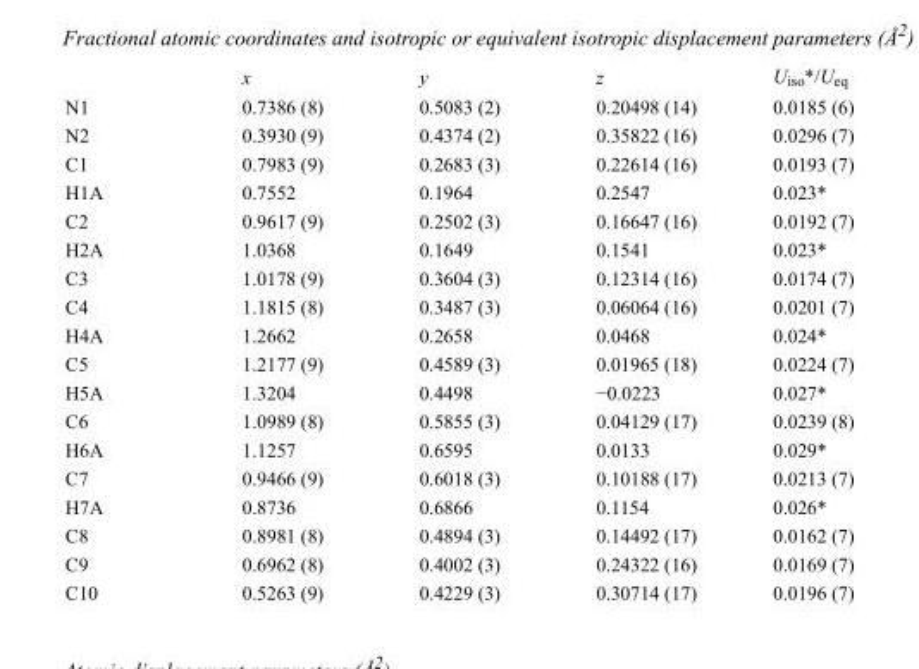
<table><thead><tr><td></td><td>x</td><td>y</td><td>z</td><td>U<sub>iso</sub>*/U<sub>eq</sub></td></tr></thead><tbody><tr><td>N1</td><td>0.7386 (8)</td><td>0.5083 (2)</td><td>0.20498 (14)</td><td>0.0185 (6)</td></tr><tr><td>N2</td><td>0.3930 (9)</td><td>0.4374 (2)</td><td>0.35822 (16)</td><td>0.0296 (7)</td></tr><tr><td>C1</td><td>0.7983 (9)</td><td>0.2683 (3)</td><td>0.22614 (16)</td><td>0.0193 (7)</td></tr><tr><td>H1A</td><td>0.7552</td><td>0.1964</td><td>0.2547</td><td>0.023*</td></tr><tr><td>C2</td><td>0.9617 (9)</td><td>0.2502 (3)</td><td>0.16647 (16)</td><td>0.0192 (7)</td></tr><tr><td>H2A</td><td>1.0368</td><td>0.1649</td><td>0.1541</td><td>0.023*</td></tr><tr><td>C3</td><td>1.0178 (9)</td><td>0.3604 (3)</td><td>0.12314 (16)</td><td>0.0174 (7)</td></tr><tr><td>C4</td><td>1.1815 (8)</td><td>0.3487 (3)</td><td>0.06064 (16)</td><td>0.0201 (7)</td></tr><tr><td>H4A</td><td>1.2662</td><td>0.2658</td><td>0.0468</td><td>0.024*</td></tr><tr><td>C5</td><td>1.2177 (9)</td><td>0.4589 (3)</td><td>0.01965 (18)</td><td>0.0224 (7)</td></tr><tr><td>H5A</td><td>1.3204</td><td>0.4498</td><td>−0.0223</td><td>0.027*</td></tr><tr><td>C6</td><td>1.0989 (8)</td><td>0.5855 (3)</td><td>0.04129 (17)</td><td>0.0239 (8)</td></tr><tr><td>H6A</td><td>1.1257</td><td>0.6595</td><td>0.0133</td><td>0.029*</td></tr><tr><td>C7</td><td>0.9466 (9)</td><td>0.6018 (3)</td><td>0.10188 (17)</td><td>0.0213 (7)</td></tr><tr><td>H7A</td><td>0.8736</td><td>0.6866</td><td>0.1154</td><td>0.026*</td></tr><tr><td>C8</td><td>0.8981 (8)</td><td>0.4894 (3)</td><td>0.14492 (17)</td><td>0.0162 (7)</td></tr><tr><td>C9</td><td>0.6962 (8)</td><td>0.4002 (3)</td><td>0.24322 (16)</td><td>0.0169 (7)</td></tr><tr><td>C10</td><td>0.5263 (9)</td><td>0.4229 (3)</td><td>0.30714 (17)</td><td>0.0196 (7)</td></tr></tbody></table>